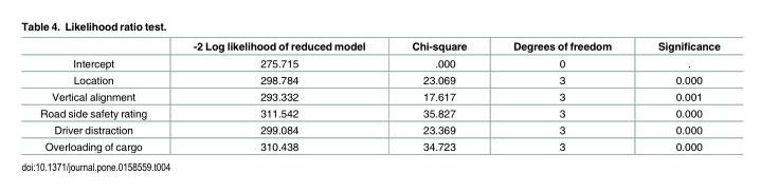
<table><thead><tr><td></td><td>-2 Log likelihood of reduced model</td><td>Chi-square</td><td>Degrees of freedom</td><td>Significance</td></tr></thead><tbody><tr><td>Intercept</td><td>275.715</td><td>.000</td><td>0</td><td>.</td></tr><tr><td>Location</td><td>298.784</td><td>23.069</td><td>3</td><td>0.000</td></tr><tr><td>Vertical alignment</td><td>293.332</td><td>17.617</td><td>3</td><td>0.001</td></tr><tr><td>Road side safety rating</td><td>311.542</td><td>35.827</td><td>3</td><td>0.000</td></tr><tr><td>Driver distraction</td><td>299.084</td><td>23.369</td><td>3</td><td>0.000</td></tr><tr><td>Overloading of cargo</td><td>310.438</td><td>34.723</td><td>3</td><td>0.000</td></tr></tbody></table>